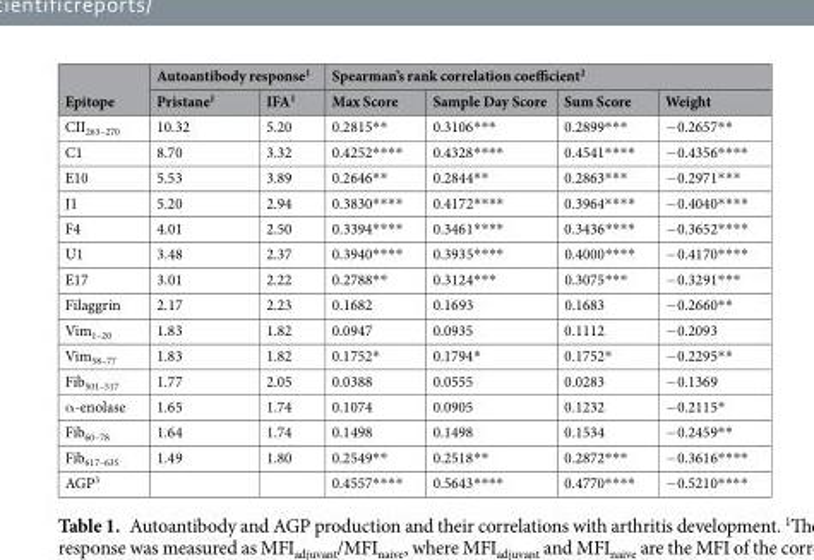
<table><thead><tr><td rowspan="2">Epitope</td><td colspan="2">Autoantibody response<sup>1</sup></td><td colspan="4">Spearman’s rank correlation coefficient<sup>2</sup></td></tr><tr><td>Pristane<sup>1</sup></td><td>IFA<sup>1</sup></td><td>Max Score</td><td>Sample Day Score</td><td>Sum Score</td><td>Weight</td></tr></thead><tbody><tr><td>CII<sub>263–270</sub></td><td>10.32</td><td>5.20</td><td>0.2815**</td><td>0.3106***</td><td>0.2899***</td><td>−0.2657**</td></tr><tr><td>C1</td><td>8.70</td><td>3.32</td><td>0.4252****</td><td>0.4328****</td><td>0.4541****</td><td>−0.4356****</td></tr><tr><td>E10</td><td>5.53</td><td>3.89</td><td>0.2646**</td><td>0.2844**</td><td>0.2863***</td><td>−0.2971***</td></tr><tr><td>J1</td><td>5.20</td><td>2.94</td><td>0.3830****</td><td>0.4172****</td><td>0.3964****</td><td>−0.4040****</td></tr><tr><td>F4</td><td>4.01</td><td>2.50</td><td>0.3394****</td><td>0.3461****</td><td>0.3436****</td><td>−0.3652****</td></tr><tr><td>U1</td><td>3.48</td><td>2.37</td><td>0.3940****</td><td>0.3935****</td><td>0.4000****</td><td>−0.4170****</td></tr><tr><td>E17</td><td>3.01</td><td>2.22</td><td>0.2788**</td><td>0.3124***</td><td>0.3075***</td><td>−0.3291***</td></tr><tr><td>Filaggrin</td><td>2.17</td><td>2.23</td><td>0.1682</td><td>0.1693</td><td>0.1683</td><td>−0.2660**</td></tr><tr><td>Vim<sub>1–20</sub></td><td>1.83</td><td>1.82</td><td>0.0947</td><td>0.0935</td><td>0.1112</td><td>−0.2093</td></tr><tr><td>Vim<sub>58–77</sub></td><td>1.83</td><td>1.82</td><td>0.1752*</td><td>0.1794*</td><td>0.1752*</td><td>−0.2295**</td></tr><tr><td>Fib<sub>501–517</sub></td><td>1.77</td><td>2.05</td><td>0.0388</td><td>0.0555</td><td>0.0283</td><td>−0.1369</td></tr><tr><td>α-enolase</td><td>1.65</td><td>1.74</td><td>0.1074</td><td>0.0905</td><td>0.1232</td><td>−0.2115*</td></tr><tr><td>Fib<sub>60–78</sub></td><td>1.64</td><td>1.74</td><td>0.1498</td><td>0.1498</td><td>0.1534</td><td>−0.2459**</td></tr><tr><td>Fib<sub>617–635</sub></td><td>1.49</td><td>1.80</td><td>0.2549**</td><td>0.2518**</td><td>0.2872***</td><td>−0.3616****</td></tr><tr><td>AGP<sup>3</sup></td><td></td><td></td><td>0.4557****</td><td>0.5643****</td><td>0.4770****</td><td>−0.5210****</td></tr></tbody></table>